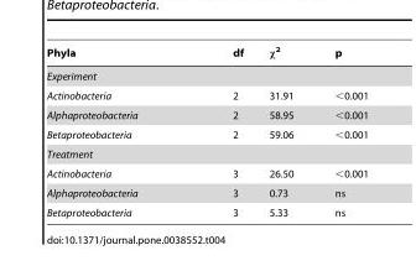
<table><thead><tr><td>Phyla</td><td>df</td><td>χ<sup>2</sup></td><td>p</td></tr></thead><tbody><tr><td colspan="4">Experiment</td></tr><tr><td>Actinobacteria</td><td>2</td><td>31.91</td><td>&lt;0.001</td></tr><tr><td>Alphaproteobacteria</td><td>2</td><td>58.95</td><td>&lt;0.001</td></tr><tr><td>Betaproteobacteria</td><td>2</td><td>59.06</td><td>&lt;0.001</td></tr><tr><td colspan="4">Treatment</td></tr><tr><td>Actinobacteria</td><td>3</td><td>26.50</td><td>&lt;0.001</td></tr><tr><td>Alphaproteobacteria</td><td>3</td><td>0.73</td><td>ns</td></tr><tr><td>Betaproteobacteria</td><td>3</td><td>5.33</td><td>ns</td></tr></tbody></table>